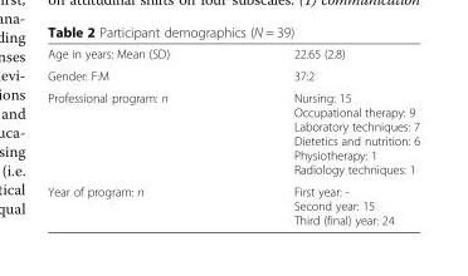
<table><tbody><tr><td>Age in years: Mean (SD)</td><td>22.65 (2.8)</td></tr><tr><td>Gender: F:M</td><td>37:2</td></tr><tr><td>Professional program: n</td><td>Nursing: 15 Occupational therapy: 9 Laboratory techniques: 7 Dietetics and nutrition: 6 Physiotherapy: 1 Radiology techniques: 1</td></tr><tr><td>Year of program: n</td><td>First year: - Second year: 15 Third (final) year: 24</td></tr></tbody></table>